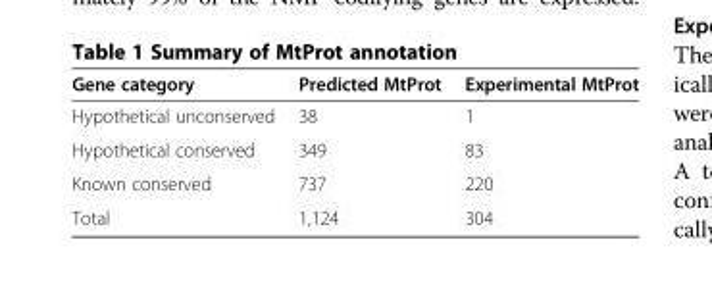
<table><thead><tr><td>Gene category</td><td>Predicted MtProt</td><td>Experimental MtProt</td></tr></thead><tbody><tr><td>Hypothetical unconserved</td><td>38</td><td>1</td></tr><tr><td>Hypothetical conserved</td><td>349</td><td>83</td></tr><tr><td>Known conserved</td><td>737</td><td>220</td></tr><tr><td>Total</td><td>1,124</td><td>304</td></tr></tbody></table>